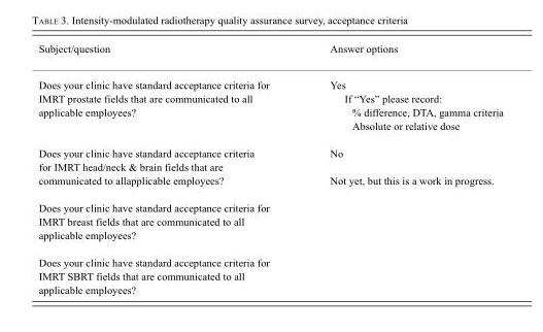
<table><thead><tr><td>Subject/question</td><td>Answer options</td></tr></thead><tbody><tr><td>Does your clinic have standard acceptance criteria for IMRT prostate fields that are communicated to all applicable employees?</td><td>Yes If “Yes” please record: % difference, DTA, gamma criteria Absolute or relative dose</td></tr><tr><td>Does your clinic have standard acceptance criteria for IMRT head/neck &amp; brain fields that are communicated to allapplicable employees?</td><td>No Not yet, but this is a work in progress.</td></tr><tr><td colspan="2">Does your clinic have standard acceptance criteria for IMRT breast fields that are communicated to all applicable employees?</td></tr><tr><td>Does your clinic have standard acceptance criteria for IMRT SBRT fields that are communicated to all applicable employees?</td><td></td></tr></tbody></table>